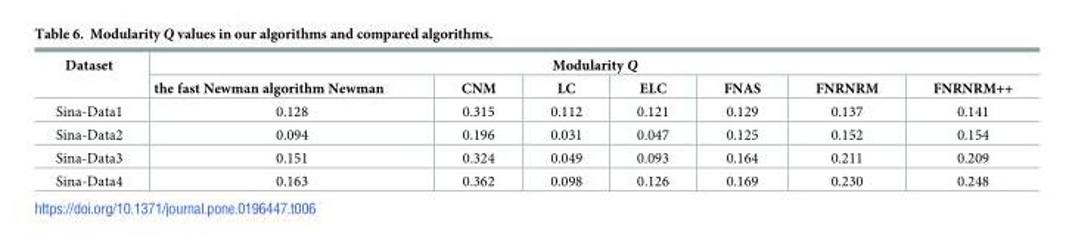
<table><thead><tr><td rowspan="2">Dataset</td><td colspan="7">Modularity Q</td></tr><tr><td>the fast Newman algorithm Newman</td><td>CNM</td><td>LC</td><td>ELC</td><td>FNAS</td><td>FNRNRM</td><td>FNRNRM++</td></tr></thead><tbody><tr><td>Sina-Data1</td><td>0.128</td><td>0.315</td><td>0.112</td><td>0.121</td><td>0.129</td><td>0.137</td><td>0.141</td></tr><tr><td>Sina-Data2</td><td>0.094</td><td>0.196</td><td>0.031</td><td>0.047</td><td>0.125</td><td>0.152</td><td>0.154</td></tr><tr><td>Sina-Data3</td><td>0.151</td><td>0.324</td><td>0.049</td><td>0.093</td><td>0.164</td><td>0.211</td><td>0.209</td></tr><tr><td>Sina-Data4</td><td>0.163</td><td>0.362</td><td>0.098</td><td>0.126</td><td>0.169</td><td>0.230</td><td>0.248</td></tr></tbody></table>